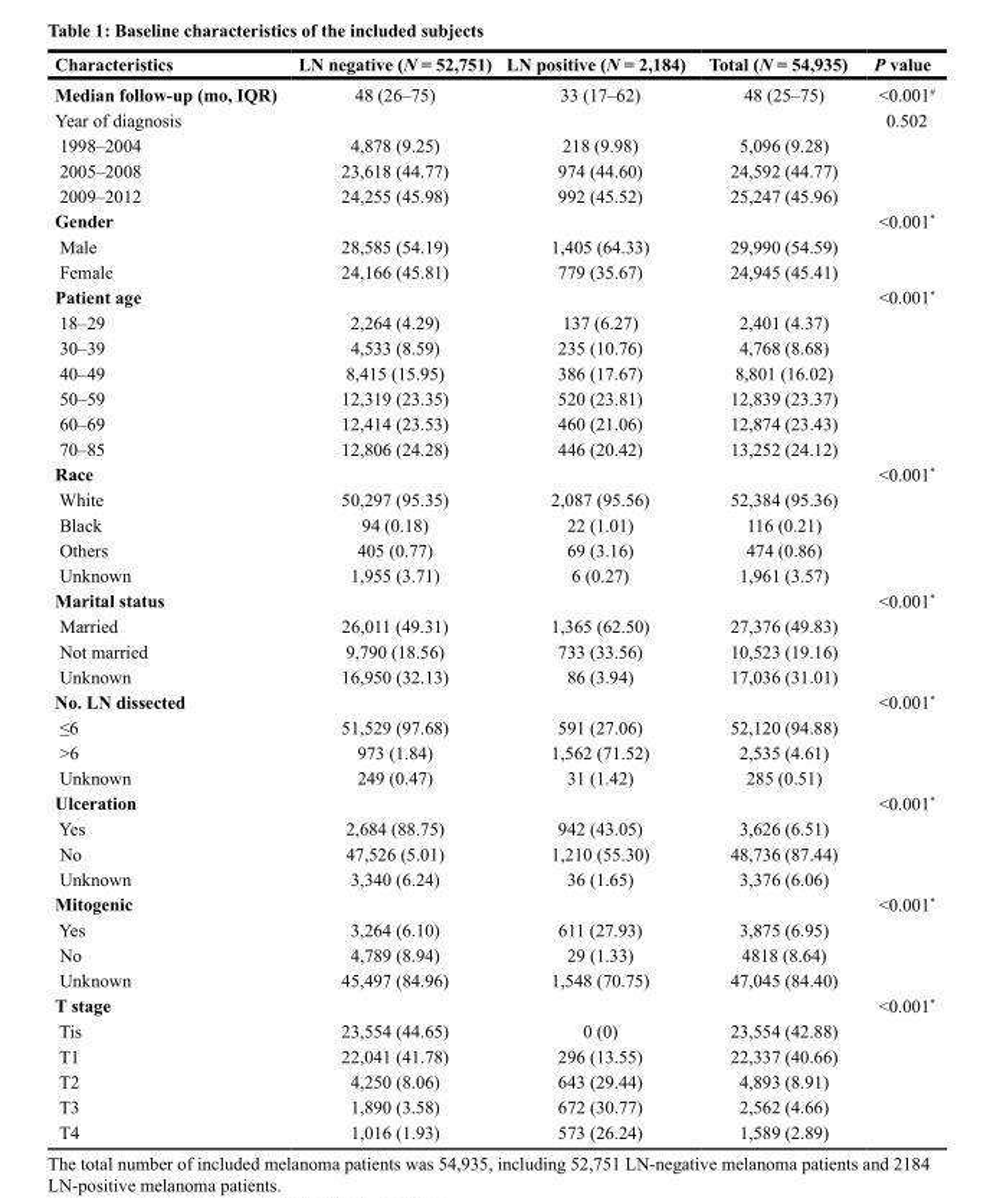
<table><thead><tr><td>Characteristics</td><td>LN negative (N = 52,751)</td><td>LN positive (N = 2,184)</td><td>Total (N = 54,935)</td><td>P value</td></tr></thead><tbody><tr><td>Median follow-up (mo, IQR)</td><td>48 (26–75)</td><td>33 (17–62)</td><td>48 (25–75)</td><td>&lt;0.001<sup>#</sup></td></tr><tr><td>Year of diagnosis</td><td></td><td></td><td></td><td>0.502</td></tr><tr><td>1998–2004</td><td>4,878 (9.25)</td><td>218 (9.98)</td><td>5,096 (9.28)</td><td></td></tr><tr><td>2005–2008</td><td>23,618 (44.77)</td><td>974 (44.60)</td><td>24,592 (44.77)</td><td></td></tr><tr><td>2009–2012</td><td>24,255 (45.98)</td><td>992 (45.52)</td><td>25,247 (45.96)</td><td></td></tr><tr><td>Gender</td><td></td><td></td><td></td><td>&lt;0.001*</td></tr><tr><td>Male</td><td>28,585 (54.19)</td><td>1,405 (64.33)</td><td>29,990 (54.59)</td><td></td></tr><tr><td>Female</td><td>24,166 (45.81)</td><td>779 (35.67)</td><td>24,945 (45.41)</td><td></td></tr><tr><td>Patient age</td><td></td><td></td><td></td><td>&lt;0.001*</td></tr><tr><td>18–29</td><td>2,264 (4.29)</td><td>137 (6.27)</td><td>2,401 (4.37)</td><td></td></tr><tr><td>30–39</td><td>4,533 (8.59)</td><td>235 (10.76)</td><td>4,768 (8.68)</td><td></td></tr><tr><td>40–49</td><td>8,415 (15.95)</td><td>386 (17.67)</td><td>8,801 (16.02)</td><td></td></tr><tr><td>50–59</td><td>12,319 (23.35)</td><td>520 (23.81)</td><td>12,839 (23.37)</td><td></td></tr><tr><td>60–69</td><td>12,414 (23.53)</td><td>460 (21.06)</td><td>12,874 (23.43)</td><td></td></tr><tr><td>70–85</td><td>12,806 (24.28)</td><td>446 (20.42)</td><td>13,252 (24.12)</td><td></td></tr><tr><td>Race</td><td></td><td></td><td></td><td>&lt;0.001*</td></tr><tr><td>White</td><td>50,297 (95.35)</td><td>2,087 (95.56)</td><td>52,384 (95.36)</td><td></td></tr><tr><td>Black</td><td>94 (0.18)</td><td>22 (1.01)</td><td>116 (0.21)</td><td></td></tr><tr><td>Others</td><td>405 (0.77)</td><td>69 (3.16)</td><td>474 (0.86)</td><td></td></tr><tr><td>Unknown</td><td>1,955 (3.71)</td><td>6 (0.27)</td><td>1,961 (3.57)</td><td></td></tr><tr><td>Marital status</td><td></td><td></td><td></td><td>&lt;0.001*</td></tr><tr><td>Married</td><td>26,011 (49.31)</td><td>1,365 (62.50)</td><td>27,376 (49.83)</td><td></td></tr><tr><td>Not married</td><td>9,790 (18.56)</td><td>733 (33.56)</td><td>10,523 (19.16)</td><td></td></tr><tr><td>Unknown</td><td>16,950 (32.13)</td><td>86 (3.94)</td><td>17,036 (31.01)</td><td></td></tr><tr><td>No. LN dissected</td><td></td><td></td><td></td><td>&lt;0.001*</td></tr><tr><td>≤6</td><td>51,529 (97.68)</td><td>591 (27.06)</td><td>52,120 (94.88)</td><td></td></tr><tr><td>&gt;6</td><td>973 (1.84)</td><td>1,562 (71.52)</td><td>2,535 (4.61)</td><td></td></tr><tr><td>Unknown</td><td>249 (0.47)</td><td>31 (1.42)</td><td>285 (0.51)</td><td></td></tr><tr><td>Ulceration</td><td></td><td></td><td></td><td>&lt;0.001*</td></tr><tr><td>Yes</td><td>2,684 (88.75)</td><td>942 (43.05)</td><td>3,626 (6.51)</td><td></td></tr><tr><td>No</td><td>47,526 (5.01)</td><td>1,210 (55.30)</td><td>48,736 (87.44)</td><td></td></tr><tr><td>Unknown</td><td>3,340 (6.24)</td><td>36 (1.65)</td><td>3,376 (6.06)</td><td></td></tr><tr><td>Mitogenic</td><td></td><td></td><td></td><td>&lt;0.001*</td></tr><tr><td>Yes</td><td>3,264 (6.10)</td><td>611 (27.93)</td><td>3,875 (6.95)</td><td></td></tr><tr><td>No</td><td>4,789 (8.94)</td><td>29 (1.33)</td><td>4818 (8.64)</td><td></td></tr><tr><td>Unknown</td><td>45,497 (84.96)</td><td>1,548 (70.75)</td><td>47,045 (84.40)</td><td></td></tr><tr><td>T stage</td><td></td><td></td><td></td><td>&lt;0.001*</td></tr><tr><td>Tis</td><td>23,554 (44.65)</td><td>0 (0)</td><td>23,554 (42.88)</td><td></td></tr><tr><td>T1</td><td>22,041 (41.78)</td><td>296 (13.55)</td><td>22,337 (40.66)</td><td></td></tr><tr><td>T2</td><td>4,250 (8.06)</td><td>643 (29.44)</td><td>4,893 (8.91)</td><td></td></tr><tr><td>T3</td><td>1,890 (3.58)</td><td>672 (30.77)</td><td>2,562 (4.66)</td><td></td></tr><tr><td>T4</td><td>1,016 (1.93)</td><td>573 (26.24)</td><td>1,589 (2.89)</td><td></td></tr></tbody></table>